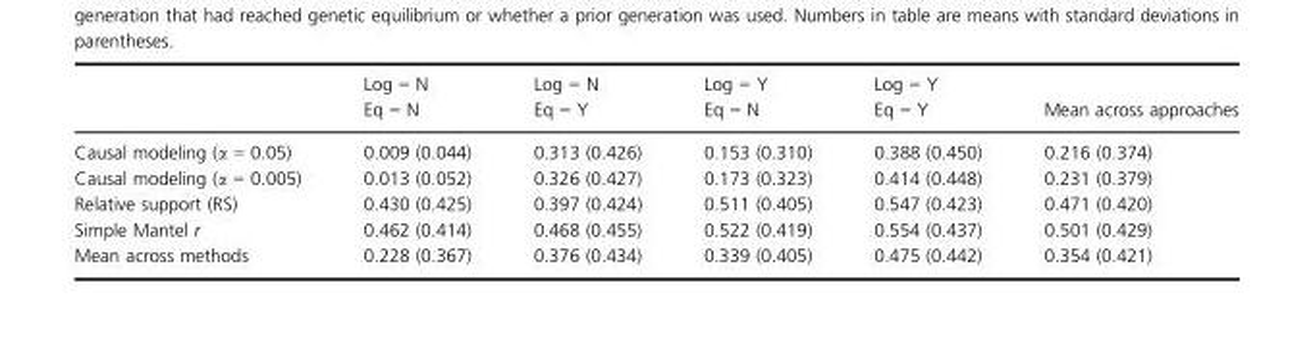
<table><thead><tr><td></td><td>Log = N Eq = N</td><td>Log = N Eq = Y</td><td>Log = Y Eq = N</td><td>Log = Y Eq = Y</td><td>Mean across approaches</td></tr></thead><tbody><tr><td>Causal modeling (α = 0.05)</td><td>0.009 (0.044)</td><td>0.313 (0.426)</td><td>0.153 (0.310)</td><td>0.388 (0.450)</td><td>0.216 (0.374)</td></tr><tr><td>Causal modeling (α = 0.005)</td><td>0.013 (0.052)</td><td>0.326 (0.427)</td><td>0.173 (0.323)</td><td>0.414 (0.448)</td><td>0.231 (0.379)</td></tr><tr><td>Relative support (RS)</td><td>0.430 (0.425)</td><td>0.397 (0.424)</td><td>0.511 (0.405)</td><td>0.547 (0.423)</td><td>0.471 (0.420)</td></tr><tr><td>Simple Mantel r</td><td>0.462 (0.414)</td><td>0.468 (0.455)</td><td>0.522 (0.419)</td><td>0.554 (0.437)</td><td>0.501 (0.429)</td></tr><tr><td>Mean across methods</td><td>0.228 (0.367)</td><td>0.376 (0.434)</td><td>0.339 (0.405)</td><td>0.475 (0.442)</td><td>0.354 (0.421)</td></tr></tbody></table>